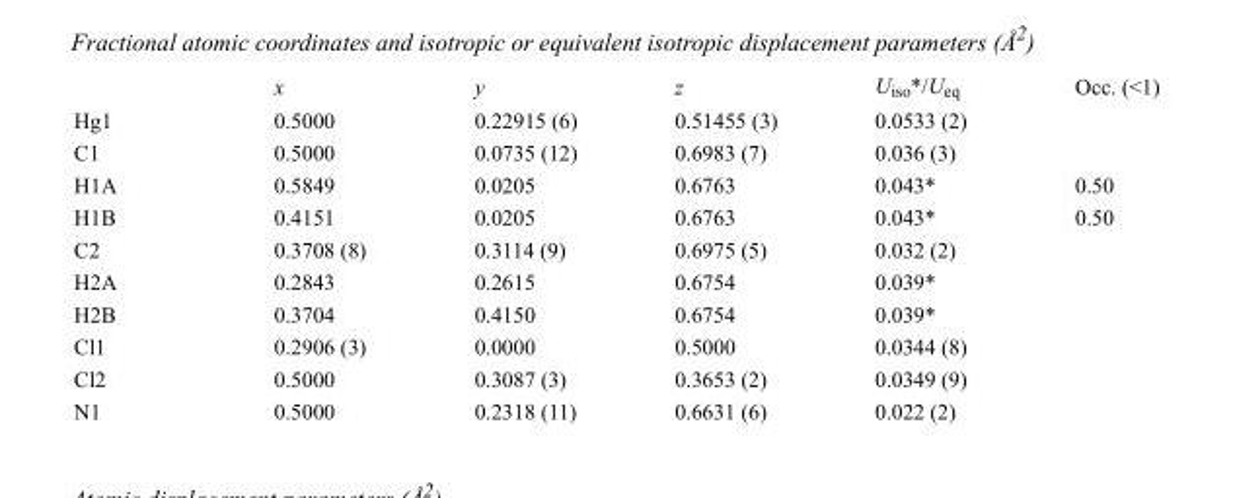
<table><thead><tr><td></td><td>x</td><td>y</td><td>z</td><td>U<sub>iso</sub>*/U<sub>eq</sub></td><td>Occ. (&lt;1)</td></tr></thead><tbody><tr><td>Hg1</td><td>0.5000</td><td>0.22915 (6)</td><td>0.51455 (3)</td><td>0.0533 (2)</td><td></td></tr><tr><td>C1</td><td>0.5000</td><td>0.0735 (12)</td><td>0.6983 (7)</td><td>0.036 (3)</td><td></td></tr><tr><td>H1A</td><td>0.5849</td><td>0.0205</td><td>0.6763</td><td>0.043*</td><td>0.50</td></tr><tr><td>H1B</td><td>0.4151</td><td>0.0205</td><td>0.6763</td><td>0.043*</td><td>0.50</td></tr><tr><td>C2</td><td>0.3708 (8)</td><td>0.3114 (9)</td><td>0.6975 (5)</td><td>0.032 (2)</td><td></td></tr><tr><td>H2A</td><td>0.2843</td><td>0.2615</td><td>0.6754</td><td>0.039*</td><td></td></tr><tr><td>H2B</td><td>0.3704</td><td>0.4150</td><td>0.6754</td><td>0.039*</td><td></td></tr><tr><td>Cl1</td><td>0.2906 (3)</td><td>0.0000</td><td>0.5000</td><td>0.0344 (8)</td><td></td></tr><tr><td>Cl2</td><td>0.5000</td><td>0.3087 (3)</td><td>0.3653 (2)</td><td>0.0349 (9)</td><td></td></tr><tr><td>N1</td><td>0.5000</td><td>0.2318 (11)</td><td>0.6631 (6)</td><td>0.022 (2)</td><td></td></tr></tbody></table>